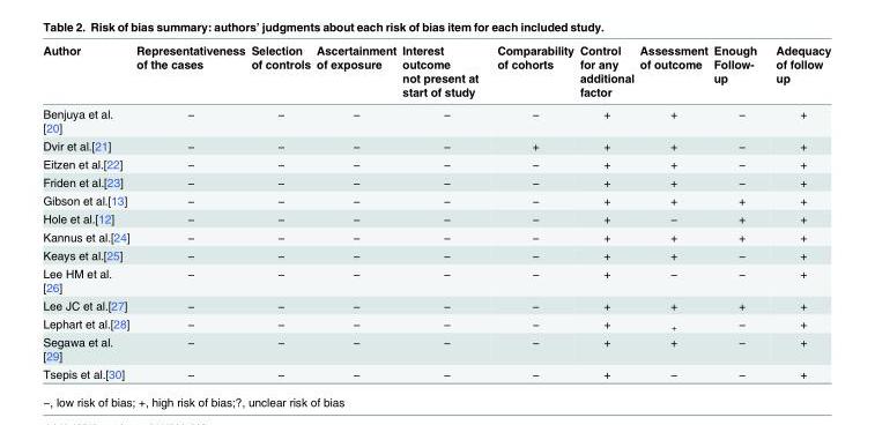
<table><thead><tr><td>Author</td><td>Representativeness of the cases</td><td>Selection of controls</td><td>Ascertainment of exposure</td><td>Interest outcome not present at start of study</td><td>Comparability of cohorts</td><td>Control for any additional factor</td><td>Assessment of outcome</td><td>Enough Follow- up</td><td>Adequacy of follow up</td></tr></thead><tbody><tr><td>Benjuya et al. [20]</td><td>−</td><td>−</td><td>−</td><td>−</td><td>−</td><td>+</td><td>+</td><td>−</td><td>+</td></tr><tr><td>Dvir et al.[21]</td><td>−</td><td>−</td><td>−</td><td>−</td><td>+</td><td>+</td><td>+</td><td>−</td><td>+</td></tr><tr><td>Eitzen et al.[22]</td><td>−</td><td>−</td><td>−</td><td>−</td><td>−</td><td>+</td><td>+</td><td>−</td><td>+</td></tr><tr><td>Friden et al.[23]</td><td>−</td><td>−</td><td>−</td><td>−</td><td>−</td><td>+</td><td>+</td><td>−</td><td>+</td></tr><tr><td>Gibson et al.[13]</td><td>−</td><td>−</td><td>−</td><td>−</td><td>−</td><td>+</td><td>+</td><td>+</td><td>+</td></tr><tr><td>Hole et al.[12]</td><td>−</td><td>−</td><td>−</td><td>−</td><td>−</td><td>+</td><td>−</td><td>+</td><td>+</td></tr><tr><td>Kannus et al.[24]</td><td>−</td><td>−</td><td>−</td><td>−</td><td>−</td><td>+</td><td>+</td><td>+</td><td>+</td></tr><tr><td>Keays et al.[25]</td><td>−</td><td>−</td><td>−</td><td>−</td><td>−</td><td>+</td><td>+</td><td>−</td><td>+</td></tr><tr><td>Lee HM et al. [26]</td><td>−</td><td>−</td><td>−</td><td>−</td><td>−</td><td>+</td><td>−</td><td>−</td><td>+</td></tr><tr><td>Lee JC et al.[27]</td><td>−</td><td>−</td><td>−</td><td>−</td><td>−</td><td>+</td><td>+</td><td>+</td><td>+</td></tr><tr><td>Lephart et al.[28]</td><td>−</td><td>−</td><td>−</td><td>−</td><td>−</td><td>+</td><td><sub>+</sub></td><td>−</td><td>+</td></tr><tr><td>Segawa et al. [29]</td><td>−</td><td>−</td><td>−</td><td>−</td><td>−</td><td>+</td><td>+</td><td>−</td><td>+</td></tr><tr><td>Tsepis et al.[30]</td><td>−</td><td>−</td><td>−</td><td>−</td><td>−</td><td>+</td><td>−</td><td>−</td><td>+</td></tr></tbody></table>